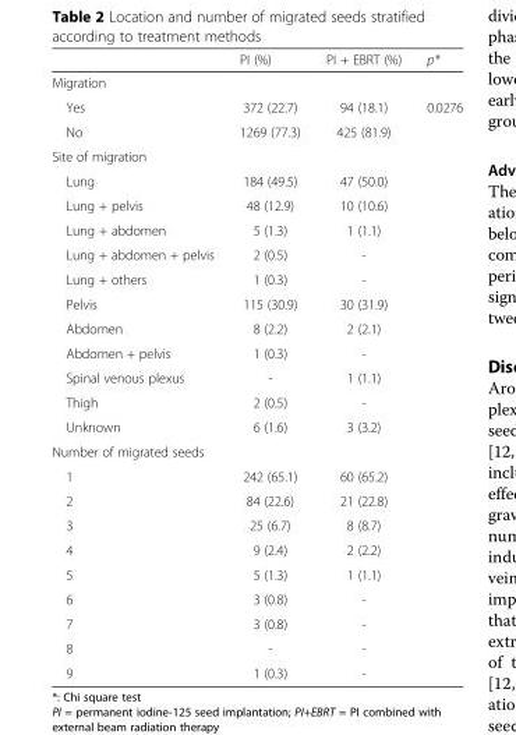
<table><thead><tr><td></td><td>PI (%)</td><td>PI + EBRT (%)</td><td>p*</td></tr></thead><tbody><tr><td colspan="4">Migration</td></tr><tr><td>Yes</td><td>372 (22.7)</td><td>94 (18.1)</td><td>0.0276</td></tr><tr><td>No</td><td>1269 (77.3)</td><td>425 (81.9)</td><td></td></tr><tr><td colspan="4">Site of migration</td></tr><tr><td>Lung</td><td>184 (49.5)</td><td>47 (50.0)</td><td></td></tr><tr><td>Lung + pelvis</td><td>48 (12.9)</td><td>10 (10.6)</td><td></td></tr><tr><td>Lung + abdomen</td><td>5 (1.3)</td><td>1 (1.1)</td><td></td></tr><tr><td>Lung + abdomen + pelvis</td><td>2 (0.5)</td><td>-</td><td></td></tr><tr><td>Lung + others</td><td>1 (0.3)</td><td>-</td><td></td></tr><tr><td>Pelvis</td><td>115 (30.9)</td><td>30 (31.9)</td><td></td></tr><tr><td>Abdomen</td><td>8 (2.2)</td><td>2 (2.1)</td><td></td></tr><tr><td>Abdomen + pelvis</td><td>1 (0.3)</td><td>-</td><td></td></tr><tr><td>Spinal venous plexus</td><td>-</td><td>1 (1.1)</td><td></td></tr><tr><td>Thigh</td><td>2 (0.5)</td><td>-</td><td></td></tr><tr><td>Unknown</td><td>6 (1.6)</td><td>3 (3.2)</td><td></td></tr><tr><td colspan="4">Number of migrated seeds</td></tr><tr><td>1</td><td>242 (65.1)</td><td>60 (65.2)</td><td></td></tr><tr><td>2</td><td>84 (22.6)</td><td>21 (22.8)</td><td></td></tr><tr><td>3</td><td>25 (6.7)</td><td>8 (8.7)</td><td></td></tr><tr><td>4</td><td>9 (2.4)</td><td>2 (2.2)</td><td></td></tr><tr><td>5</td><td>5 (1.3)</td><td>1 (1.1)</td><td></td></tr><tr><td>6</td><td>3 (0.8)</td><td>-</td><td></td></tr><tr><td>7</td><td>3 (0.8)</td><td>-</td><td></td></tr><tr><td>8</td><td>-</td><td>-</td><td></td></tr><tr><td>9</td><td>1 (0.3)</td><td>-</td><td></td></tr></tbody></table>